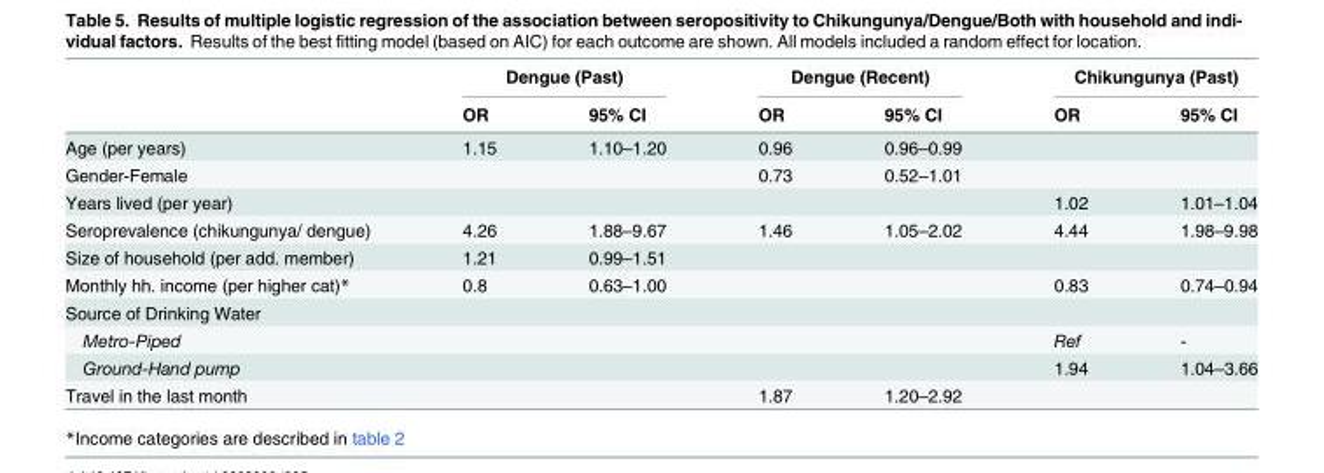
<table><thead><tr><td rowspan="2"></td><td colspan="2">Dengue (Past)</td><td colspan="2">Dengue (Recent)</td><td colspan="2">Chikungunya (Past)</td></tr><tr><td>OR</td><td>95% CI</td><td>OR</td><td>95% CI</td><td>OR</td><td>95% CI</td></tr></thead><tbody><tr><td>Age (per years)</td><td>1.15</td><td>1.10–1.20</td><td>0.96</td><td>0.96–0.99</td><td></td><td></td></tr><tr><td>Gender-Female</td><td></td><td></td><td>0.73</td><td>0.52–1.01</td><td></td><td></td></tr><tr><td>Years lived (per year)</td><td></td><td></td><td></td><td></td><td>1.02</td><td>1.01–1.04</td></tr><tr><td>Seroprevalence (chikungunya/ dengue)</td><td>4.26</td><td>1.88–9.67</td><td>1.46</td><td>1.05–2.02</td><td>4.44</td><td>1.98–9.98</td></tr><tr><td>Size of household (per add. member)</td><td>1.21</td><td>0.99–1.51</td><td></td><td></td><td></td><td></td></tr><tr><td>Monthly hh. income (per higher cat)*</td><td>0.8</td><td>0.63–1.00</td><td></td><td></td><td>0.83</td><td>0.74–0.94</td></tr><tr><td colspan="7">Source of Drinking Water</td></tr><tr><td>Metro-Piped</td><td></td><td></td><td></td><td></td><td>Ref</td><td>-</td></tr><tr><td>Ground-Hand pump</td><td></td><td></td><td></td><td></td><td>1.94</td><td>1.04–3.66</td></tr><tr><td>Travel in the last month</td><td></td><td></td><td>1.87</td><td>1.20–2.92</td><td></td><td></td></tr></tbody></table>